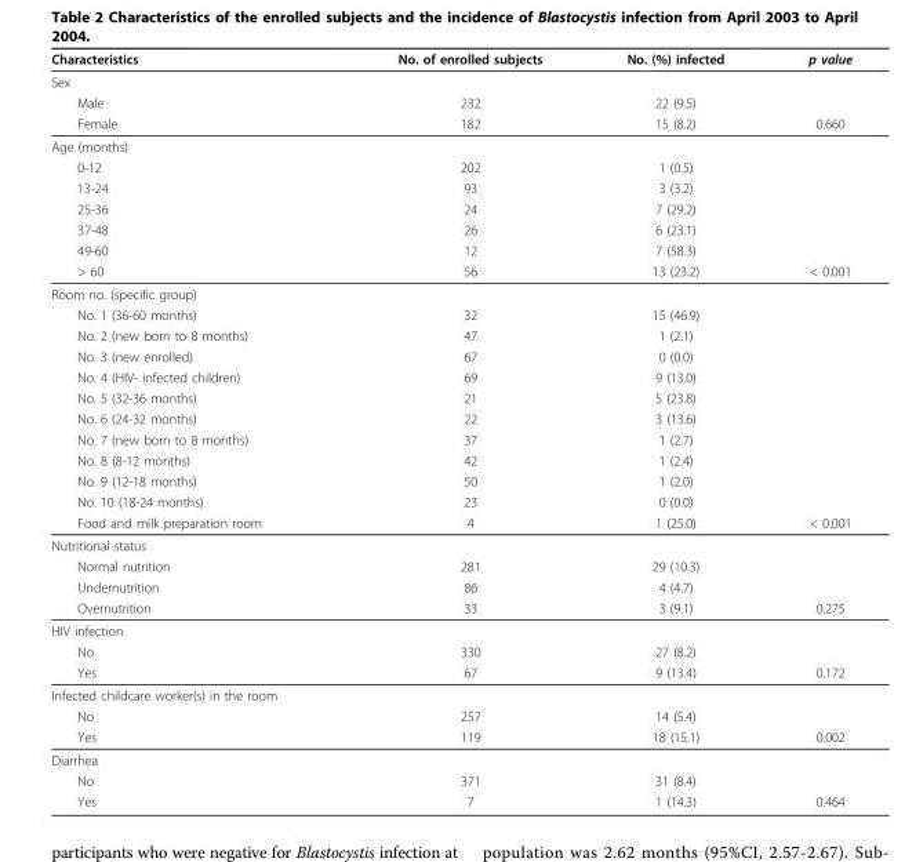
<table><thead><tr><td>Characteristics</td><td>No. of enrolled subjects</td><td>No. (%) infected</td><td>p value</td></tr></thead><tbody><tr><td colspan="4">Sex</td></tr><tr><td>Male</td><td>232</td><td>22 (9.5)</td><td></td></tr><tr><td>Female</td><td>182</td><td>15 (8.2)</td><td>0.660</td></tr><tr><td colspan="4">Age (months)</td></tr><tr><td>0-12</td><td>202</td><td>1 (0.5)</td><td></td></tr><tr><td>13-24</td><td>93</td><td>3 (3.2)</td><td></td></tr><tr><td>25-36</td><td>24</td><td>7 (29.2)</td><td></td></tr><tr><td>37-48</td><td>26</td><td>6 (23.1)</td><td></td></tr><tr><td>49-60</td><td>12</td><td>7 (58.3)</td><td></td></tr><tr><td>&gt; 60</td><td>56</td><td>13 (23.2)</td><td>&lt; 0.001</td></tr><tr><td colspan="4">Room no. (specific group)</td></tr><tr><td>No. 1 (36-60 months)</td><td>32</td><td>15 (46.9)</td><td></td></tr><tr><td>No. 2 (new born to 8 months)</td><td>47</td><td>1 (2.1)</td><td></td></tr><tr><td>No. 3 (new enrolled)</td><td>67</td><td>0 (0.0)</td><td></td></tr><tr><td>No. 4 (HIV- infected children)</td><td>69</td><td>9 (13.0)</td><td></td></tr><tr><td>No. 5 (32-36 months)</td><td>21</td><td>5 (23.8)</td><td></td></tr><tr><td>No. 6 (24-32 months)</td><td>22</td><td>3 (13.6)</td><td></td></tr><tr><td>No. 7 (new born to 8 months)</td><td>37</td><td>1 (2.7)</td><td></td></tr><tr><td>No. 8 (8-12 months)</td><td>42</td><td>1 (2.4)</td><td></td></tr><tr><td>No. 9 (12-18 months)</td><td>50</td><td>1 (2.0)</td><td></td></tr><tr><td>No. 10 (18-24 months)</td><td>23</td><td>0 (0.0)</td><td></td></tr><tr><td>Food and milk preparation room</td><td>4</td><td>1 (25.0)</td><td>&lt; 0.001</td></tr><tr><td colspan="4">Nutritional status</td></tr><tr><td>Normal nutrition</td><td>281</td><td>29 (10.3)</td><td></td></tr><tr><td>Undernutrition</td><td>86</td><td>4 (4.7)</td><td></td></tr><tr><td>Overnutrition</td><td>33</td><td>3 (9.1)</td><td>0.275</td></tr><tr><td colspan="4">HIV infection</td></tr><tr><td>No</td><td>330</td><td>27 (8.2)</td><td></td></tr><tr><td>Yes</td><td>67</td><td>9 (13.4)</td><td>0.172</td></tr><tr><td colspan="4">Infected childcare worker(s) in the room</td></tr><tr><td>No</td><td>257</td><td>14 (5.4)</td><td></td></tr><tr><td>Yes</td><td>119</td><td>18 (15.1)</td><td>0.002</td></tr><tr><td colspan="4">Diarrhea</td></tr><tr><td>No</td><td>371</td><td>31 (8.4)</td><td></td></tr><tr><td>Yes</td><td>7</td><td>1 (14.3)</td><td>0.464</td></tr></tbody></table>